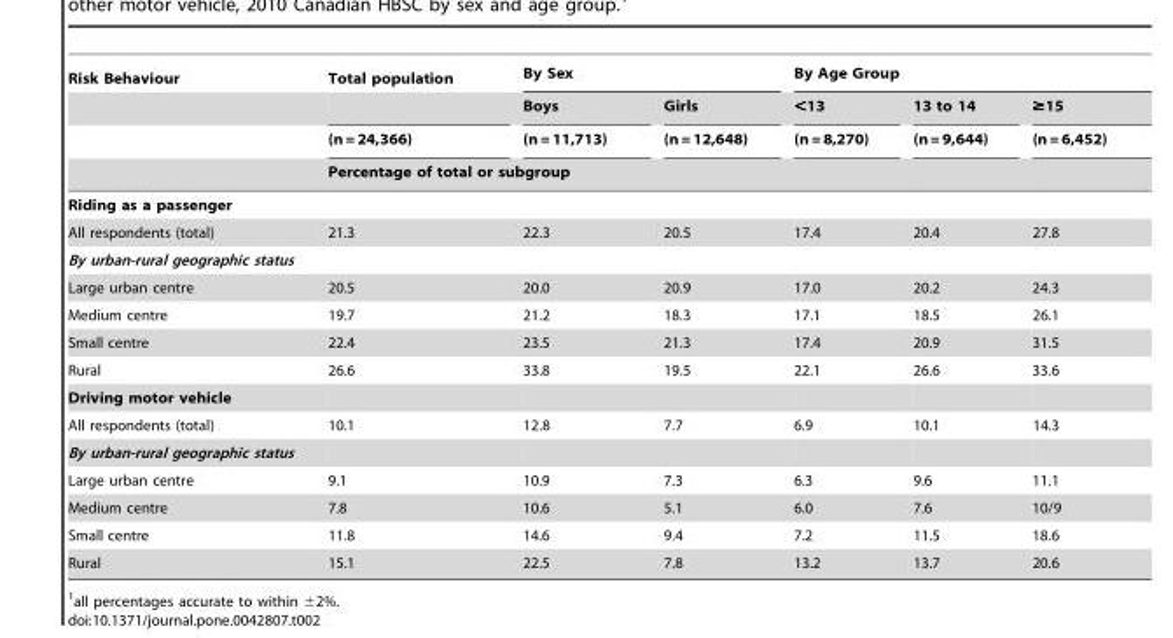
<table><thead><tr><td rowspan="4">Risk Behaviour</td><td rowspan="3">Total population (n = 24,366)</td><td colspan="2">By Sex</td><td colspan="3">By Age Group</td></tr><tr><td rowspan="2">Boys (n = 11,713)</td><td rowspan="2">Girls (n = 12,648)</td><td rowspan="2">&lt;13 (n = 8,270)</td><td rowspan="2">13 to 14 (n = 9,644)</td><td rowspan="2">≥15 (n = 6,452)</td></tr><tr></tr><tr><td colspan="6">Percentage of total or subgroup</td></tr></thead><tbody><tr><td colspan="7">Riding as a passenger</td></tr><tr><td>All respondents (total)</td><td>21.3</td><td>22.3</td><td>20.5</td><td>17.4</td><td>20.4</td><td>27.8</td></tr><tr><td colspan="7">By urban-rural geographic status</td></tr><tr><td>Large urban centre</td><td>20.5</td><td>20.0</td><td>20.9</td><td>17.0</td><td>20.2</td><td>24.3</td></tr><tr><td>Medium centre</td><td>19.7</td><td>21.2</td><td>18.3</td><td>17.1</td><td>18.5</td><td>26.1</td></tr><tr><td>Small centre</td><td>22.4</td><td>23.5</td><td>21.3</td><td>17.4</td><td>20.9</td><td>31.5</td></tr><tr><td>Rural</td><td>26.6</td><td>33.8</td><td>19.5</td><td>22.1</td><td>26.6</td><td>33.6</td></tr><tr><td colspan="7">Driving motor vehicle</td></tr><tr><td>All respondents (total)</td><td>10.1</td><td>12.8</td><td>7.7</td><td>6.9</td><td>10.1</td><td>14.3</td></tr><tr><td colspan="7">By urban-rural geographic status</td></tr><tr><td>Large urban centre</td><td>9.1</td><td>10.9</td><td>7.3</td><td>6.3</td><td>9.6</td><td>11.1</td></tr><tr><td>Medium centre</td><td>7.8</td><td>10.6</td><td>5.1</td><td>6.0</td><td>7.6</td><td>10/9</td></tr><tr><td>Small centre</td><td>11.8</td><td>14.6</td><td>9.4</td><td>7.2</td><td>11.5</td><td>18.6</td></tr><tr><td>Rural</td><td>15.1</td><td>22.5</td><td>7.8</td><td>13.2</td><td>13.7</td><td>20.6</td></tr></tbody></table>